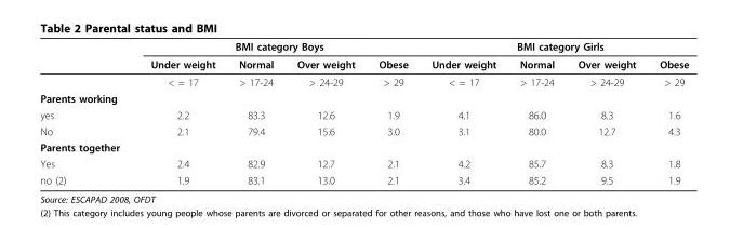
<table><thead><tr><td rowspan="2"></td><td colspan="4">BMI category Boys</td><td colspan="4">BMI category Girls</td></tr><tr><td>Under weight</td><td>Normal</td><td>Over weight</td><td>Obese</td><td>Under weight</td><td>Normal</td><td>Over weight</td><td>Obese</td></tr></thead><tbody><tr><td></td><td>&lt; = 17</td><td>&gt; 17-24</td><td>&gt; 24-29</td><td>&gt; 29</td><td>&lt; = 17</td><td>&gt; 17-24</td><td>&gt; 24-29</td><td>&gt; 29</td></tr><tr><td colspan="9">Parents working</td></tr><tr><td>yes</td><td>2.2</td><td>83.3</td><td>12.6</td><td>1.9</td><td>4.1</td><td>86.0</td><td>8.3</td><td>1.6</td></tr><tr><td>No</td><td>2.1</td><td>79.4</td><td>15.6</td><td>3.0</td><td>3.1</td><td>80.0</td><td>12.7</td><td>4.3</td></tr><tr><td colspan="9">Parents together</td></tr><tr><td>Yes</td><td>2.4</td><td>82.9</td><td>12.7</td><td>2.1</td><td>4.2</td><td>85.7</td><td>8.3</td><td>1.8</td></tr><tr><td>no (2)</td><td>1.9</td><td>83.1</td><td>13.0</td><td>2.1</td><td>3.4</td><td>85.2</td><td>9.5</td><td>1.9</td></tr></tbody></table>